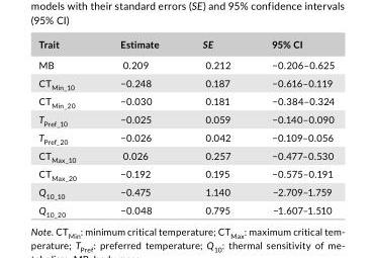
<table><thead><tr><td>Trait</td><td>Estimate</td><td>SE</td><td>95% CI</td></tr></thead><tbody><tr><td>MB</td><td>0.209</td><td>0.212</td><td>−0.206–0.625</td></tr><tr><td>CT<sub>Min_10</sub></td><td>−0.248</td><td>0.187</td><td>−0.616–0.119</td></tr><tr><td>CT<sub>Min_20</sub></td><td>−0.030</td><td>0.181</td><td>−0.384–0.324</td></tr><tr><td>T<sub>Pref_10</sub></td><td>−0.025</td><td>0.059</td><td>−0.140–0.090</td></tr><tr><td>T<sub>Pref_20</sub></td><td>−0.026</td><td>0.042</td><td>−0.109–0.056</td></tr><tr><td>CT<sub>Max_10</sub></td><td>0.026</td><td>0.257</td><td>−0.477–0.530</td></tr><tr><td>CT<sub>Max_20</sub></td><td>−0.192</td><td>0.195</td><td>−0.575–0.191</td></tr><tr><td>Q<sub>10_10</sub></td><td>−0.475</td><td>1.140</td><td>−2.709–1.759</td></tr><tr><td>Q<sub>10_20</sub></td><td>−0.048</td><td>0.795</td><td>−1.607–1.510</td></tr></tbody></table>